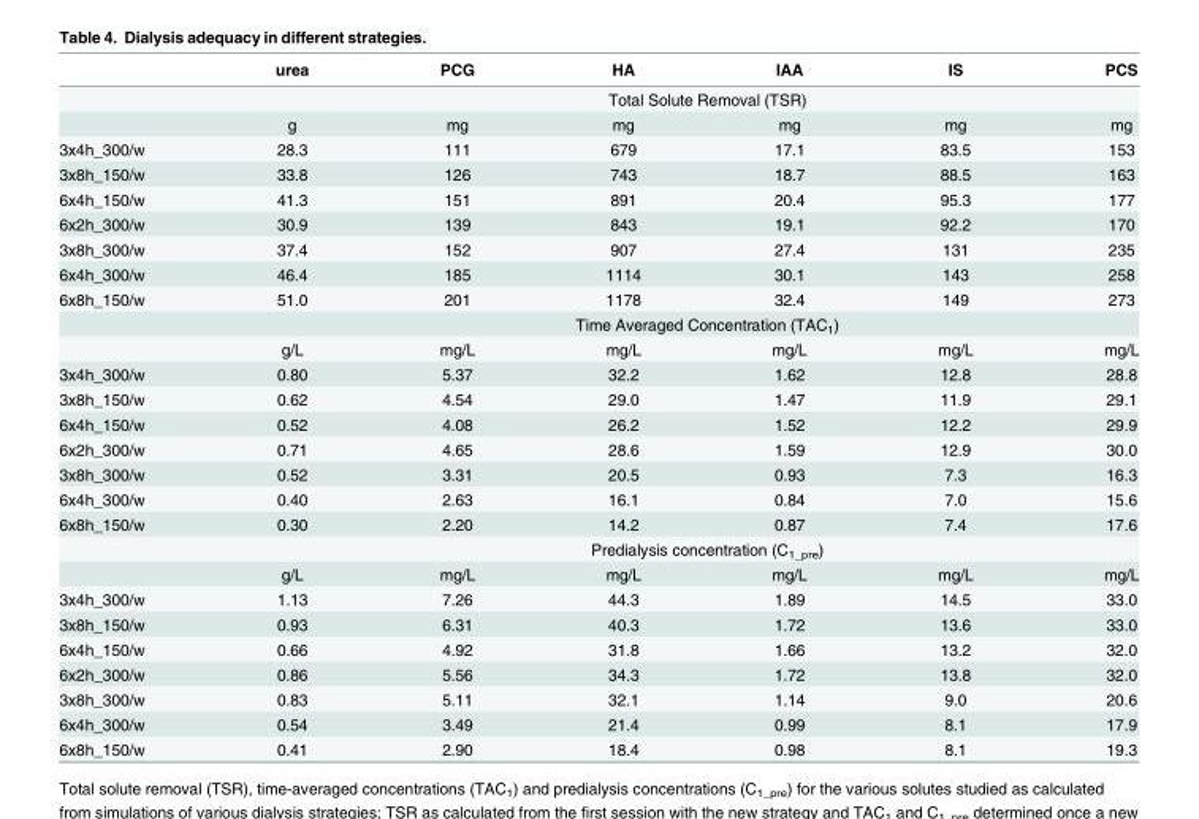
<table><thead><tr><td></td><td>urea</td><td>PCG</td><td>HA</td><td>IAA</td><td>IS</td><td>PCS</td></tr></thead><tbody><tr><td></td><td colspan="6">Total Solute Removal (TSR)</td></tr><tr><td></td><td>g</td><td>mg</td><td>mg</td><td>mg</td><td>mg</td><td>mg</td></tr><tr><td>3x4h_300/w</td><td>28.3</td><td>111</td><td>679</td><td>17.1</td><td>83.5</td><td>153</td></tr><tr><td>3x8h_150/w</td><td>33.8</td><td>126</td><td>743</td><td>18.7</td><td>88.5</td><td>163</td></tr><tr><td>6x4h_150/w</td><td>41.3</td><td>151</td><td>891</td><td>20.4</td><td>95.3</td><td>177</td></tr><tr><td>6x2h_300/w</td><td>30.9</td><td>139</td><td>843</td><td>19.1</td><td>92.2</td><td>170</td></tr><tr><td>3x8h_300/w</td><td>37.4</td><td>152</td><td>907</td><td>27.4</td><td>131</td><td>235</td></tr><tr><td>6x4h_300/w</td><td>46.4</td><td>185</td><td>1114</td><td>30.1</td><td>143</td><td>258</td></tr><tr><td rowspan="3">6x8h_150/w</td><td>51.0</td><td>201</td><td>1178</td><td>32.4</td><td>149</td><td>273</td></tr><tr><td colspan="6">Time Averaged Concentration (TAC<sub>1</sub>)</td></tr><tr><td>g/L</td><td>mg/L</td><td>mg/L</td><td>mg/L</td><td>mg/L</td><td>mg/L</td></tr><tr><td>3x4h_300/w</td><td>0.80</td><td>5.37</td><td>32.2</td><td>1.62</td><td>12.8</td><td>28.8</td></tr><tr><td>3x8h_150/w</td><td>0.62</td><td>4.54</td><td>29.0</td><td>1.47</td><td>11.9</td><td>29.1</td></tr><tr><td>6x4h_150/w</td><td>0.52</td><td>4.08</td><td>26.2</td><td>1.52</td><td>12.2</td><td>29.9</td></tr><tr><td>6x2h_300/w</td><td>0.71</td><td>4.65</td><td>28.6</td><td>1.59</td><td>12.9</td><td>30.0</td></tr><tr><td>3x8h_300/w</td><td>0.52</td><td>3.31</td><td>20.5</td><td>0.93</td><td>7.3</td><td>16.3</td></tr><tr><td>6x4h_300/w</td><td>0.40</td><td>2.63</td><td>16.1</td><td>0.84</td><td>7.0</td><td>15.6</td></tr><tr><td rowspan="3">6x8h_150/w</td><td>0.30</td><td>2.20</td><td>14.2</td><td>0.87</td><td>7.4</td><td>17.6</td></tr><tr><td colspan="6">Predialysis concentration (C<sub>1_pre</sub>)</td></tr><tr><td>g/L</td><td>mg/L</td><td>mg/L</td><td>mg/L</td><td>mg/L</td><td>mg/L</td></tr><tr><td>3x4h_300/w</td><td>1.13</td><td>7.26</td><td>44.3</td><td>1.89</td><td>14.5</td><td>33.0</td></tr><tr><td>3x8h_150/w</td><td>0.93</td><td>6.31</td><td>40.3</td><td>1.72</td><td>13.6</td><td>33.0</td></tr><tr><td>6x4h_150/w</td><td>0.66</td><td>4.92</td><td>31.8</td><td>1.66</td><td>13.2</td><td>32.0</td></tr><tr><td>6x2h_300/w</td><td>0.86</td><td>5.56</td><td>34.3</td><td>1.72</td><td>13.8</td><td>32.0</td></tr><tr><td>3x8h_300/w</td><td>0.83</td><td>5.11</td><td>32.1</td><td>1.14</td><td>9.0</td><td>20.6</td></tr><tr><td>6x4h_300/w</td><td>0.54</td><td>3.49</td><td>21.4</td><td>0.99</td><td>8.1</td><td>17.9</td></tr><tr><td>6x8h_150/w</td><td>0.41</td><td>2.90</td><td>18.4</td><td>0.98</td><td>8.1</td><td>19.3</td></tr></tbody></table>